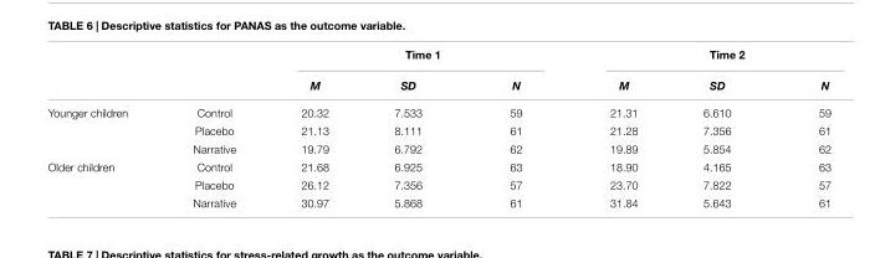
<table><thead><tr><td rowspan="2"></td><td rowspan="2"></td><td colspan="3">Time 1</td><td colspan="3">Time 2</td></tr><tr><td>M</td><td>SD</td><td>N</td><td>M</td><td>SD</td><td>N</td></tr></thead><tbody><tr><td rowspan="3">Younger children</td><td>Control</td><td>20.32</td><td>7.533</td><td>59</td><td>21.31</td><td>6.610</td><td>59</td></tr><tr><td>Placebo</td><td>21.13</td><td>8.111</td><td>61</td><td>21.28</td><td>7.356</td><td>61</td></tr><tr><td>Narrative</td><td>19.79</td><td>6.792</td><td>62</td><td>19.89</td><td>5.854</td><td>62</td></tr><tr><td rowspan="3">Older children</td><td>Control</td><td>21.68</td><td>6.925</td><td>63</td><td>18.90</td><td>4.165</td><td>63</td></tr><tr><td>Placebo</td><td>26.12</td><td>7.356</td><td>57</td><td>23.70</td><td>7.822</td><td>57</td></tr><tr><td>Narrative</td><td>30.97</td><td>5.868</td><td>61</td><td>31.84</td><td>5.643</td><td>61</td></tr></tbody></table>